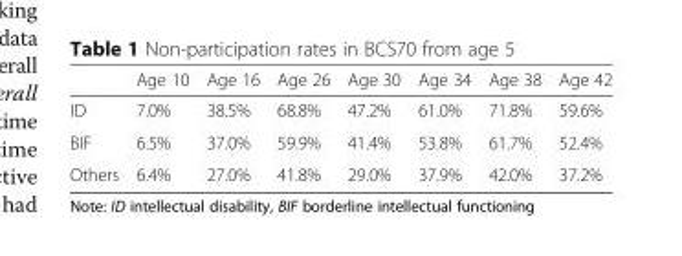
<table><thead><tr><td></td><td>Age 10</td><td>Age 16</td><td>Age 26</td><td>Age 30</td><td>Age 34</td><td>Age 38</td><td>Age 42</td></tr></thead><tbody><tr><td>ID</td><td>7.0%</td><td>38.5%</td><td>68.8%</td><td>47.2%</td><td>61.0%</td><td>71.8%</td><td>59.6%</td></tr><tr><td>BIF</td><td>6.5%</td><td>37.0%</td><td>59.9%</td><td>41.4%</td><td>53.8%</td><td>61.7%</td><td>52.4%</td></tr><tr><td>Others</td><td>6.4%</td><td>27.0%</td><td>41.8%</td><td>29.0%</td><td>37.9%</td><td>42.0%</td><td>37.2%</td></tr></tbody></table>